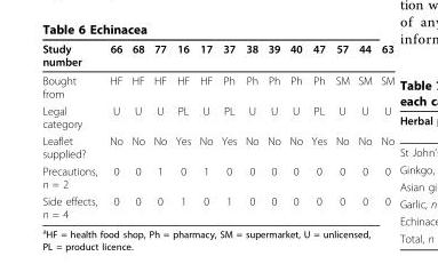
<table><thead><tr><td>Study number</td><td>66</td><td>68</td><td>77</td><td>16</td><td>17</td><td>37</td><td>38</td><td>39</td><td>40</td><td>47</td><td>57</td><td>44</td><td>63</td></tr></thead><tbody><tr><td>Bought from</td><td>HF</td><td>HF</td><td>HF</td><td>HF</td><td>HF</td><td>Ph</td><td>Ph</td><td>Ph</td><td>Ph</td><td>Ph</td><td>SM</td><td>SM</td><td>SM</td></tr><tr><td>Legal category</td><td>U</td><td>U</td><td>U</td><td>PL</td><td>U</td><td>PL</td><td>U</td><td>U</td><td>U</td><td>PL</td><td>U</td><td>U</td><td>U</td></tr><tr><td>Leaflet supplied?</td><td>No</td><td>No</td><td>No</td><td>Yes</td><td>No</td><td>Yes</td><td>No</td><td>No</td><td>No</td><td>Yes</td><td>No</td><td>No</td><td>No</td></tr><tr><td>Precautions, n = 2</td><td>0</td><td>0</td><td>1</td><td>0</td><td>1</td><td>0</td><td>0</td><td>0</td><td>0</td><td>0</td><td>0</td><td>0</td><td>0</td></tr><tr><td>Side effects, n = 4</td><td>0</td><td>0</td><td>0</td><td>1</td><td>0</td><td>1</td><td>0</td><td>0</td><td>0</td><td>0</td><td>0</td><td>0</td><td>0</td></tr></tbody></table>